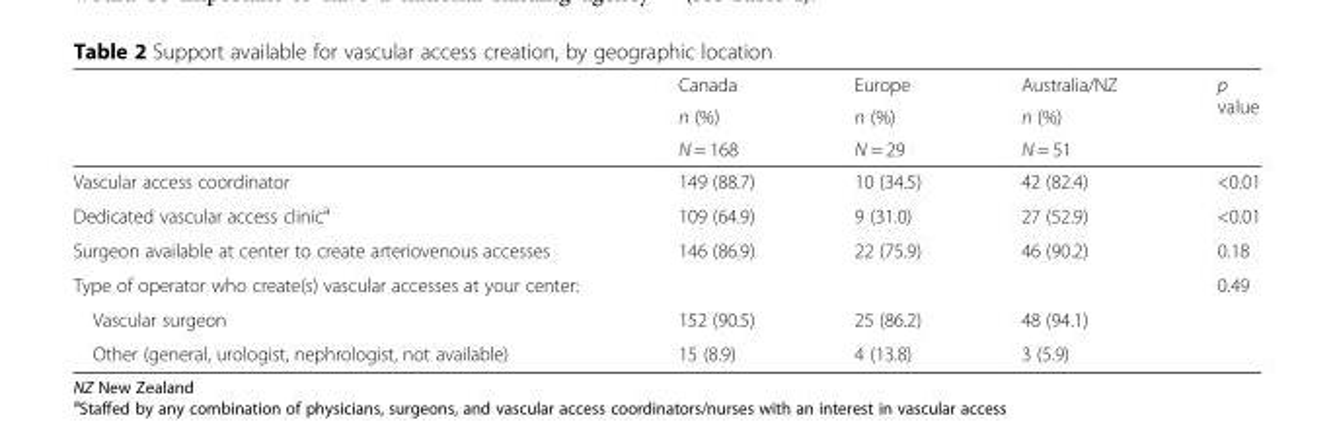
<table><thead><tr><td rowspan="3"></td><td rowspan="3">Canada n (%) N = 168</td><td rowspan="3">Europe n (%) N = 29</td><td rowspan="3">Australia/NZ n (%) N = 51</td><td rowspan="3">p value</td></tr><tr></tr><tr></tr></thead><tbody><tr><td>Vascular access coordinator</td><td>149 (88.7)</td><td>10 (34.5)</td><td>42 (82.4)</td><td>&lt;0.01</td></tr><tr><td>Dedicated vascular access clinic<sup>a</sup></td><td>109 (64.9)</td><td>9 (31.0)</td><td>27 (52.9)</td><td>&lt;0.01</td></tr><tr><td>Surgeon available at center to create arteriovenous accesses</td><td>146 (86.9)</td><td>22 (75.9)</td><td>46 (90.2)</td><td>0.18</td></tr><tr><td>Type of operator who create(s) vascular accesses at your center:</td><td></td><td></td><td></td><td>0.49</td></tr><tr><td>Vascular surgeon</td><td>152 (90.5)</td><td>25 (86.2)</td><td>48 (94.1)</td><td></td></tr><tr><td>Other (general, urologist, nephrologist, not available)</td><td>15 (8.9)</td><td>4 (13.8)</td><td>3 (5.9)</td><td></td></tr></tbody></table>